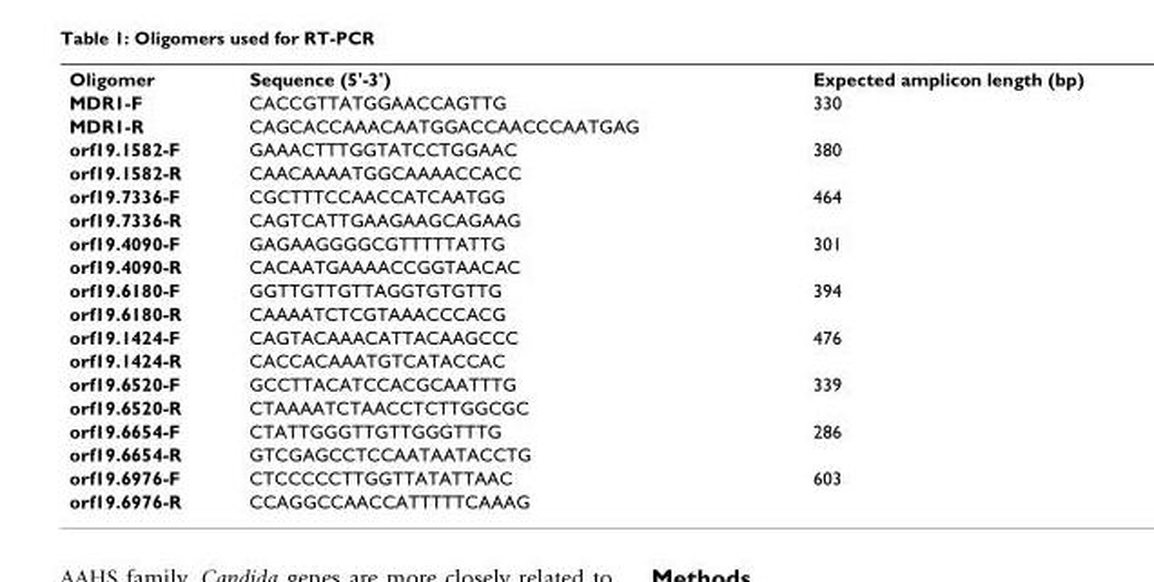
<table><tbody><tr><td>Oligomer</td><td>Sequence (5&#x27;-3&#x27;)</td><td>Expected amplicon length (bp)</td></tr><tr><td>MDR1-F</td><td>CACCGTTATGGAACCAGTTG</td><td>330</td></tr><tr><td>MDR1-R</td><td>CAGCACCAAACAATGGACCAACCCAATGAG</td><td></td></tr><tr><td>orf19.1582-F</td><td>GAAACTTTGGTATCCTGGAAC</td><td>380</td></tr><tr><td>orf19.1582-R</td><td>CAACAAAATGGCAAAACCACC</td><td></td></tr><tr><td>orf19.7336-F</td><td>CGCTTTCCAACCATCAATGG</td><td>464</td></tr><tr><td>orf19.7336-R</td><td>CAGTCATTGAAGAAGCAGAAG</td><td></td></tr><tr><td>orf19.4090-F</td><td>GAGAAGGGGCGTTTTTATTG</td><td>301</td></tr><tr><td>orf19.4090-R</td><td>CACAATGAAAACCGGTAACAC</td><td></td></tr><tr><td>orf19.6180-F</td><td>GGTTGTTGTTAGGTGTGTTG</td><td>394</td></tr><tr><td>orf19.6180-R</td><td>CAAAATCTCGTAAACCCACG</td><td></td></tr><tr><td>orf19.1424-F</td><td>CAGTACAAACATTACAAGCCC</td><td>476</td></tr><tr><td>orf19.1424-R</td><td>CACCACAAATGTCATACCAC</td><td></td></tr><tr><td>orf19.6520-F</td><td>GCCTTACATCCACGCAATTTG</td><td>339</td></tr><tr><td>orf19.6520-R</td><td>CTAAAATCTAACCTCTTGGCGC</td><td></td></tr><tr><td>orf19.6654-F</td><td>CTATTGGGTTGTTGGGTTTG</td><td>286</td></tr><tr><td>orf19.6654-R</td><td>GTCGAGCCTCCAATAATACCTG</td><td></td></tr><tr><td>orf19.6976-F</td><td>CTCCCCCTTGGTTATATTAAC</td><td>603</td></tr><tr><td>orf19.6976-R</td><td>CCAGGCCAACCATTTTTCAAAG</td><td></td></tr></tbody></table>